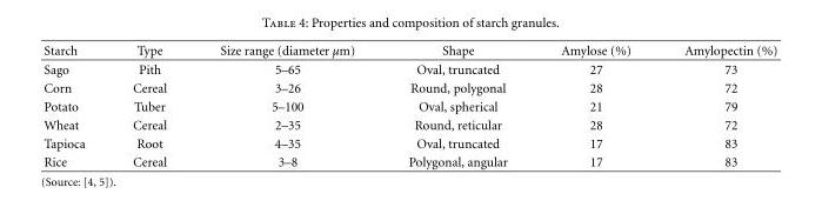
<table><thead><tr><td>Starch</td><td>Type</td><td>Size range (diameter μm)</td><td>Shape</td><td>Amylose (%)</td><td>Amylopectin (%)</td></tr></thead><tbody><tr><td>Sago</td><td>Pith</td><td>5–65</td><td>Oval, truncated</td><td>27</td><td>73</td></tr><tr><td>Corn</td><td>Cereal</td><td>3–26</td><td>Round, polygonal</td><td>28</td><td>72</td></tr><tr><td>Potato</td><td>Tuber</td><td>5–100</td><td>Oval, spherical</td><td>21</td><td>79</td></tr><tr><td>Wheat</td><td>Cereal</td><td>2–35</td><td>Round, reticular</td><td>28</td><td>72</td></tr><tr><td>Tapioca</td><td>Root</td><td>4–35</td><td>Oval, truncated</td><td>17</td><td>83</td></tr><tr><td>Rice</td><td>Cereal</td><td>3–8</td><td>Polygonal, angular</td><td>17</td><td>83</td></tr></tbody></table>